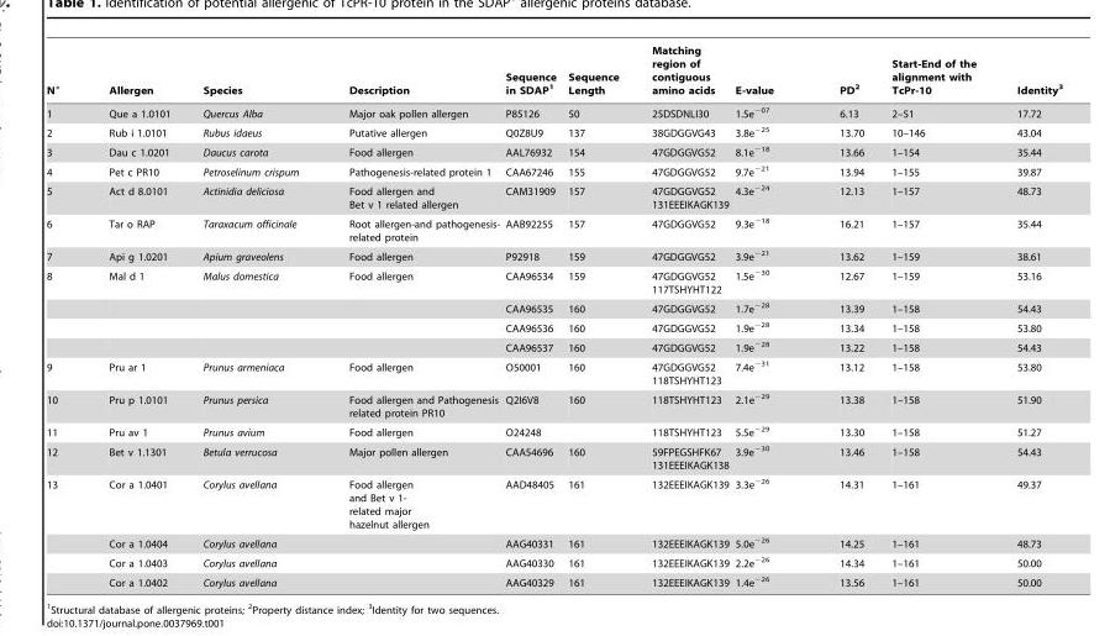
<table><thead><tr><td>N°</td><td>Allergen</td><td>Species</td><td>Description</td><td>Sequence in SDAP<sup>1</sup></td><td>Sequence Length</td><td>Matching region of contiguous amino acids</td><td>E-value</td><td>PD<sup>2</sup></td><td>Start-End of the alignment with TcPr-10</td><td>Identity<sup>3</sup></td></tr></thead><tbody><tr><td>1</td><td>Que a 1.0101</td><td>Quercus Alba</td><td>Major oak pollen allergen</td><td>P85126</td><td>50</td><td>25DSDNLI30</td><td>1.5e<sup>−07</sup></td><td>6.13</td><td>2–51</td><td>17.72</td></tr><tr><td>2</td><td>Rub i 1.0101</td><td>Rubus idaeus</td><td>Putative allergen</td><td>Q0Z8U9</td><td>137</td><td>38GDGGVG43</td><td>3.8e<sup>−25</sup></td><td>13.70</td><td>10–146</td><td>43.04</td></tr><tr><td>3</td><td>Dau c 1.0201</td><td>Daucus carota</td><td>Food allergen</td><td>AAL76932</td><td>154</td><td>47GDGGVG52</td><td>8.1e<sup>−18</sup></td><td>13.66</td><td>1–154</td><td>35.44</td></tr><tr><td>4</td><td>Pet c PR10</td><td>Petroselinum crispum</td><td>Pathogenesis-related protein 1</td><td>CAA67246</td><td>155</td><td>47GDGGVG52</td><td>9.7e<sup>−21</sup></td><td>13.94</td><td>1–155</td><td>39.87</td></tr><tr><td>5</td><td>Act d 8.0101</td><td>Actinidia deliciosa</td><td>Food allergen and Bet v 1 related allergen</td><td>CAM31909</td><td>157</td><td>47GDGGVG52 131EEEIKAGK139</td><td>4.3e<sup>−24</sup></td><td>12.13</td><td>1–157</td><td>48.73</td></tr><tr><td>6</td><td>Tar o RAP</td><td>Taraxacum officinale</td><td>Root allergen-and pathogenesis- related protein</td><td>AAB92255</td><td>157</td><td>47GDGGVG52</td><td>9.3e<sup>−18</sup></td><td>16.21</td><td>1–157</td><td>35.44</td></tr><tr><td>7</td><td>Api g 1.0201</td><td>Apium graveolens</td><td>Food allergen</td><td>P92918</td><td>159</td><td>47GDGGVG52</td><td>3.9e<sup>−21</sup></td><td>13.62</td><td>1–159</td><td>38.61</td></tr><tr><td rowspan="4">8</td><td>Mal d 1</td><td>Malus domestica</td><td>Food allergen</td><td>CAA96534</td><td>159</td><td>47GDGGVG52 117TSHYHT122</td><td>1.5e<sup>−30</sup></td><td>12.67</td><td>1–159</td><td>53.16</td></tr><tr><td></td><td></td><td></td><td>CAA96535</td><td>160</td><td>47GDGGVG52</td><td>1.7e<sup>−28</sup></td><td>13.39</td><td>1–158</td><td>54.43</td></tr><tr><td></td><td></td><td></td><td>CAA96536</td><td>160</td><td>47GDGGVG52</td><td>1.9e<sup>−28</sup></td><td>13.34</td><td>1–158</td><td>53.80</td></tr><tr><td></td><td></td><td></td><td>CAA96537</td><td>160</td><td>47GDGGVG52</td><td>1.9e<sup>−28</sup></td><td>13.22</td><td>1–158</td><td>54.43</td></tr><tr><td>9</td><td>Pru ar 1</td><td>Prunus armeniaca</td><td>Food allergen</td><td>O50001</td><td>160</td><td>47GDGGVG52 118TSHYHT123</td><td>7.4e<sup>−31</sup></td><td>13.12</td><td>1–158</td><td>53.80</td></tr><tr><td>10</td><td>Pru p 1.0101</td><td>Prunus persica</td><td>Food allergen and Pathogenesis related protein PR10</td><td>Q2I6V8</td><td>160</td><td>118TSHYHT123</td><td>2.1e<sup>−29</sup></td><td>13.38</td><td>1–158</td><td>51.90</td></tr><tr><td>11</td><td>Pru av 1</td><td>Prunus avium</td><td>Food allergen</td><td>O24248</td><td></td><td>118TSHYHT123</td><td>5.5e<sup>−29</sup></td><td>13.30</td><td>1–158</td><td>51.27</td></tr><tr><td>12</td><td>Bet v 1.1301</td><td>Betula verrucosa</td><td>Major pollen allergen</td><td>CAA54696</td><td>160</td><td>59FPEGSHFK67 131EEEIKAGK138</td><td>3.9e<sup>−30</sup></td><td>13.46</td><td>1–158</td><td>54.43</td></tr><tr><td rowspan="4">13</td><td>Cor a 1.0401</td><td>Corylus avellana</td><td>Food allergen and Bet v 1- related major hazelnut allergen</td><td>AAD48405</td><td>161</td><td>132EEEIKAGK139</td><td>3.3e<sup>−26</sup></td><td>14.31</td><td>1–161</td><td>49.37</td></tr><tr><td>Cor a 1.0404</td><td>Corylus avellana</td><td></td><td>AAG40331</td><td>161</td><td>132EEEIKAGK139</td><td>5.0e<sup>−26</sup></td><td>14.25</td><td>1–161</td><td>48.73</td></tr><tr><td>Cor a 1.0403</td><td>Corylus avellana</td><td></td><td>AAG40330</td><td>161</td><td>132EEEIKAGK139</td><td>2.2e<sup>−26</sup></td><td>14.34</td><td>1–161</td><td>50.00</td></tr><tr><td>Cor a 1.0402</td><td>Corylus avellana</td><td></td><td>AAG40329</td><td>161</td><td>132EEEIKAGK139</td><td>1.4e<sup>−26</sup></td><td>13.56</td><td>1–161</td><td>50.00</td></tr></tbody></table>